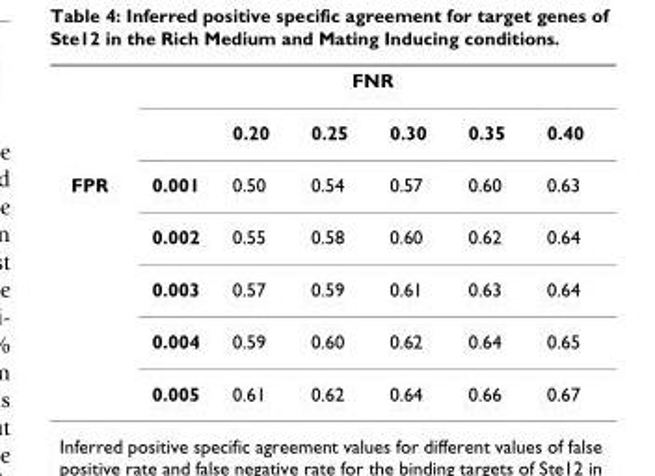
<table><thead><tr><td rowspan="2"></td><td colspan="6">FNR</td></tr><tr><td></td><td>0.20</td><td>0.25</td><td>0.30</td><td>0.35</td><td>0.40</td></tr></thead><tbody><tr><td rowspan="5">FPR</td><td>0.001</td><td>0.50</td><td>0.54</td><td>0.57</td><td>0.60</td><td>0.63</td></tr><tr><td>0.002</td><td>0.55</td><td>0.58</td><td>0.60</td><td>0.62</td><td>0.64</td></tr><tr><td>0.003</td><td>0.57</td><td>0.59</td><td>0.61</td><td>0.63</td><td>0.64</td></tr><tr><td>0.004</td><td>0.59</td><td>0.60</td><td>0.62</td><td>0.64</td><td>0.65</td></tr><tr><td>0.005</td><td>0.61</td><td>0.62</td><td>0.64</td><td>0.66</td><td>0.67</td></tr></tbody></table>